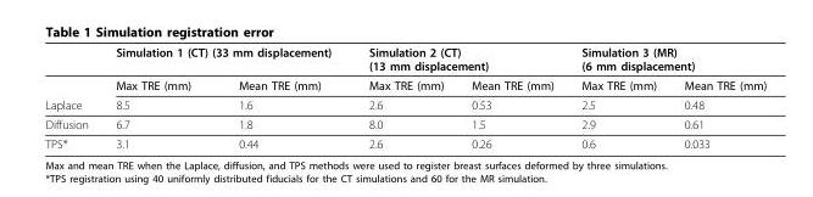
<table><thead><tr><td rowspan="2"></td><td colspan="2">Simulation 1 (CT) (33 mm displacement)</td><td colspan="2">Simulation 2 (CT) (13 mm displacement)</td><td colspan="2">Simulation 3 (MR) (6 mm displacement)</td></tr><tr><td>Max TRE (mm)</td><td>Mean TRE (mm)</td><td>Max TRE (mm)</td><td>Mean TRE (mm)</td><td>Max TRE (mm)</td><td>Mean TRE (mm)</td></tr></thead><tbody><tr><td>Laplace</td><td>8.5</td><td>1.6</td><td>2.6</td><td>0.53</td><td>2.5</td><td>0.48</td></tr><tr><td>Diffusion</td><td>6.7</td><td>1.8</td><td>8.0</td><td>1.5</td><td>2.9</td><td>0.61</td></tr><tr><td>TPS*</td><td>3.1</td><td>0.44</td><td>2.6</td><td>0.26</td><td>0.6</td><td>0.033</td></tr></tbody></table>